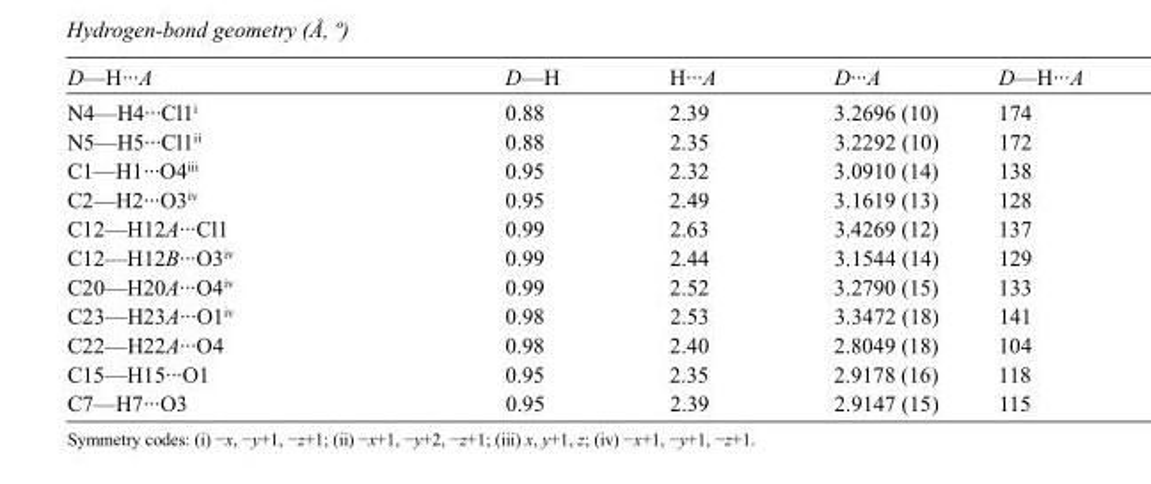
<table><tbody><tr><td>D—H···A</td><td>D—H</td><td>H···A</td><td>D···A</td><td>D—H···A</td></tr><tr><td>N4—H4···Cl1<sup>i</sup></td><td>0.88</td><td>2.39</td><td>3.2696 (10)</td><td>174</td></tr><tr><td>N5—H5···Cl1<sup>ii</sup></td><td>0.88</td><td>2.35</td><td>3.2292 (10)</td><td>172</td></tr><tr><td>C1—H1···O4<sup>iii</sup></td><td>0.95</td><td>2.32</td><td>3.0910 (14)</td><td>138</td></tr><tr><td>C2—H2···O3<sup>iv</sup></td><td>0.95</td><td>2.49</td><td>3.1619 (13)</td><td>128</td></tr><tr><td>C12—H12A···Cl1</td><td>0.99</td><td>2.63</td><td>3.4269 (12)</td><td>137</td></tr><tr><td>C12—H12B···O3<sup>iv</sup></td><td>0.99</td><td>2.44</td><td>3.1544 (14)</td><td>129</td></tr><tr><td>C20—H20A···O4<sup>iv</sup></td><td>0.99</td><td>2.52</td><td>3.2790 (15)</td><td>133</td></tr><tr><td>C23—H23A···O1<sup>iv</sup></td><td>0.98</td><td>2.53</td><td>3.3472 (18)</td><td>141</td></tr><tr><td>C22—H22A···O4</td><td>0.98</td><td>2.40</td><td>2.8049 (18)</td><td>104</td></tr><tr><td>C15—H15···O1</td><td>0.95</td><td>2.35</td><td>2.9178 (16)</td><td>118</td></tr><tr><td>C7—H7···O3</td><td>0.95</td><td>2.39</td><td>2.9147 (15)</td><td>115</td></tr></tbody></table>